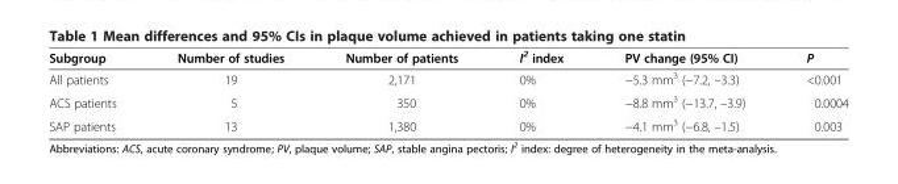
<table><thead><tr><td>Subgroup</td><td>Number of studies</td><td>Number of patients</td><td>I<sup>2</sup> index</td><td>PV change (95% CI)</td><td>P</td></tr></thead><tbody><tr><td>All patients</td><td>19</td><td>2,171</td><td>0%</td><td>−5.3 mm<sup>3</sup> (−7.2, –3.3)</td><td>&lt;0.001</td></tr><tr><td>ACS patients</td><td>5</td><td>350</td><td>0%</td><td>−8.8 mm<sup>3</sup> (−13.7, –3.9)</td><td>0.0004</td></tr><tr><td>SAP patients</td><td>13</td><td>1,380</td><td>0%</td><td>−4.1 mm<sup>3</sup> (−6.8, –1.5)</td><td>0.003</td></tr></tbody></table>